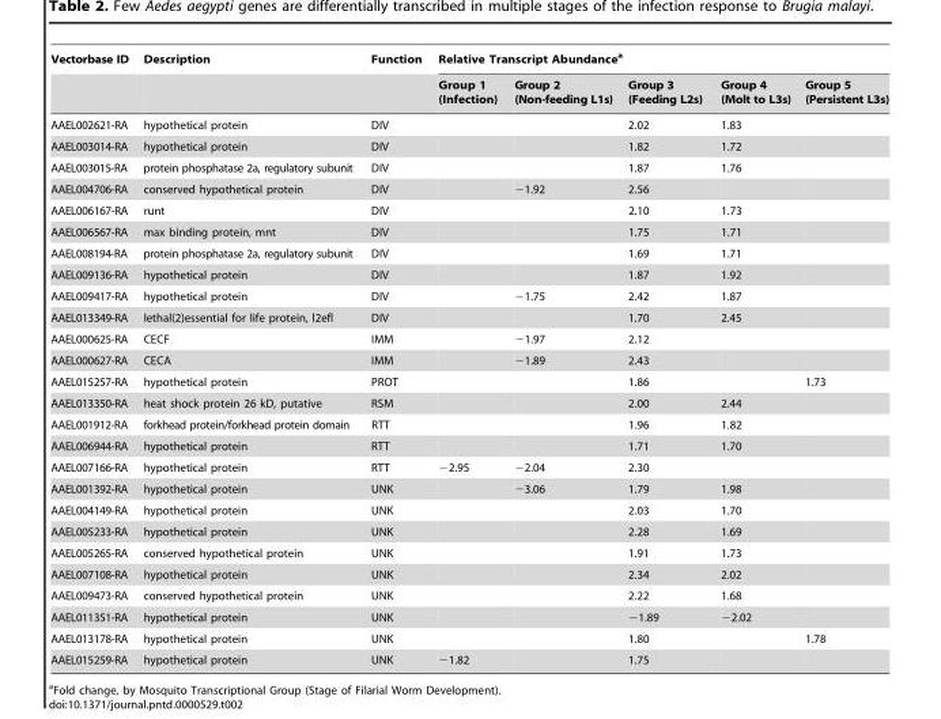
<table><thead><tr><td rowspan="2">Vectorbase ID</td><td rowspan="2">Description</td><td rowspan="2">Function</td><td colspan="5">Relative Transcript Abundance<sup>a</sup></td></tr><tr><td>Group 1 (Infection)</td><td>Group 2 (Non-feeding L1s)</td><td>Group 3 (Feeding L2s)</td><td>Group 4 (Molt to L3s)</td><td>Group 5 (Persistent L3s)</td></tr></thead><tbody><tr><td>AAEL002621-RA</td><td>hypothetical protein</td><td>DIV</td><td></td><td></td><td>2.02</td><td>1.83</td><td></td></tr><tr><td>AAEL003014-RA</td><td>hypothetical protein</td><td>DIV</td><td></td><td></td><td>1.82</td><td>1.72</td><td></td></tr><tr><td>AAEL003015-RA</td><td>protein phosphatase 2a, regulatory subunit</td><td>DIV</td><td></td><td></td><td>1.87</td><td>1.76</td><td></td></tr><tr><td>AAEL004706-RA</td><td>conserved hypothetical protein</td><td>DIV</td><td></td><td>−1.92</td><td>2.56</td><td></td><td></td></tr><tr><td>AAEL006167-RA</td><td>runt</td><td>DIV</td><td></td><td></td><td>2.10</td><td>1.73</td><td></td></tr><tr><td>AAEL006567-RA</td><td>max binding protein, mnt</td><td>DIV</td><td></td><td></td><td>1.75</td><td>1.71</td><td></td></tr><tr><td>AAEL008194-RA</td><td>protein phosphatase 2a, regulatory subunit</td><td>DIV</td><td></td><td></td><td>1.69</td><td>1.71</td><td></td></tr><tr><td>AAEL009136-RA</td><td>hypothetical protein</td><td>DIV</td><td></td><td></td><td>1.87</td><td>1.92</td><td></td></tr><tr><td>AAEL009417-RA</td><td>hypothetical protein</td><td>DIV</td><td></td><td>−1.75</td><td>2.42</td><td>1.87</td><td></td></tr><tr><td>AAEL013349-RA</td><td>lethal(2)essential for life protein, l2efl</td><td>DIV</td><td></td><td></td><td>1.70</td><td>2.45</td><td></td></tr><tr><td>AAEL000625-RA</td><td>CECF</td><td>IMM</td><td></td><td>−1.97</td><td>2.12</td><td></td><td></td></tr><tr><td>AAEL000627-RA</td><td>CECA</td><td>IMM</td><td></td><td>−1.89</td><td>2.43</td><td></td><td></td></tr><tr><td>AAEL015257-RA</td><td>hypothetical protein</td><td>PROT</td><td></td><td></td><td>1.86</td><td></td><td>1.73</td></tr><tr><td>AAEL013350-RA</td><td>heat shock protein 26 kD, putative</td><td>RSM</td><td></td><td></td><td>2.00</td><td>2.44</td><td></td></tr><tr><td>AAEL001912-RA</td><td>forkhead protein/forkhead protein domain</td><td>RTT</td><td></td><td></td><td>1.96</td><td>1.82</td><td></td></tr><tr><td>AAEL006944-RA</td><td>hypothetical protein</td><td>RTT</td><td></td><td></td><td>1.71</td><td>1.70</td><td></td></tr><tr><td>AAEL007166-RA</td><td>hypothetical protein</td><td>RTT</td><td>−2.95</td><td>−2.04</td><td>2.30</td><td></td><td></td></tr><tr><td>AAEL001392-RA</td><td>hypothetical protein</td><td>UNK</td><td></td><td>−3.06</td><td>1.79</td><td>1.98</td><td></td></tr><tr><td>AAEL004149-RA</td><td>hypothetical protein</td><td>UNK</td><td></td><td></td><td>2.03</td><td>1.70</td><td></td></tr><tr><td>AAEL005233-RA</td><td>hypothetical protein</td><td>UNK</td><td></td><td></td><td>2.28</td><td>1.69</td><td></td></tr><tr><td>AAEL005265-RA</td><td>conserved hypothetical protein</td><td>UNK</td><td></td><td></td><td>1.91</td><td>1.73</td><td></td></tr><tr><td>AAEL007108-RA</td><td>hypothetical protein</td><td>UNK</td><td></td><td></td><td>2.34</td><td>2.02</td><td></td></tr><tr><td>AAEL009473-RA</td><td>conserved hypothetical protein</td><td>UNK</td><td></td><td></td><td>2.22</td><td>1.68</td><td></td></tr><tr><td>AAEL011351-RA</td><td>hypothetical protein</td><td>UNK</td><td></td><td></td><td>−1.89</td><td>−2.02</td><td></td></tr><tr><td>AAEL013178-RA</td><td>hypothetical protein</td><td>UNK</td><td></td><td></td><td>1.80</td><td></td><td>1.78</td></tr><tr><td>AAEL015259-RA</td><td>hypothetical protein</td><td>UNK</td><td>−1.82</td><td></td><td>1.75</td><td></td><td></td></tr></tbody></table>